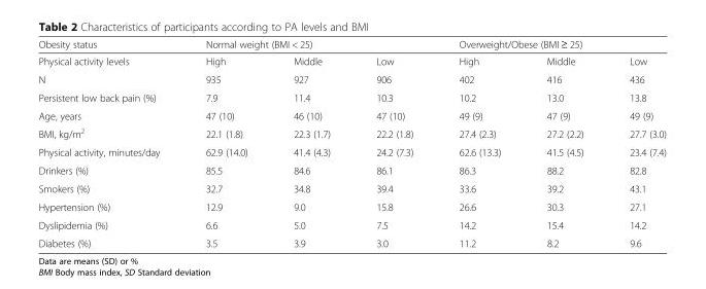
<table><thead><tr><td rowspan="2">Obesity status Physical activity levels</td><td colspan="3">Normal weight (BMI &lt; 25)</td><td colspan="3">Overweight/Obese (BMI ≥ 25)</td></tr><tr><td>High</td><td>Middle</td><td>Low</td><td>High</td><td>Middle</td><td>Low</td></tr></thead><tbody><tr><td>N</td><td>935</td><td>927</td><td>906</td><td>402</td><td>416</td><td>436</td></tr><tr><td>Persistent low back pain (%)</td><td>7.9</td><td>11.4</td><td>10.3</td><td>10.2</td><td>13.0</td><td>13.8</td></tr><tr><td>Age, years</td><td>47 (10)</td><td>46 (10)</td><td>47 (10)</td><td>49 (9)</td><td>47 (9)</td><td>49 (9)</td></tr><tr><td>BMI, kg/m<sup>2</sup></td><td>22.1 (1.8)</td><td>22.3 (1.7)</td><td>22.2 (1.8)</td><td>27.4 (2.3)</td><td>27.2 (2.2)</td><td>27.7 (3.0)</td></tr><tr><td>Physical activity, minutes/day</td><td>62.9 (14.0)</td><td>41.4 (4.3)</td><td>24.2 (7.3)</td><td>62.6 (13.3)</td><td>41.5 (4.5)</td><td>23.4 (7.4)</td></tr><tr><td>Drinkers (%)</td><td>85.5</td><td>84.6</td><td>86.1</td><td>86.3</td><td>88.2</td><td>82.8</td></tr><tr><td>Smokers (%)</td><td>32.7</td><td>34.8</td><td>39.4</td><td>33.6</td><td>39.2</td><td>43.1</td></tr><tr><td>Hypertension (%)</td><td>12.9</td><td>9.0</td><td>15.8</td><td>26.6</td><td>30.3</td><td>27.1</td></tr><tr><td>Dyslipidemia (%)</td><td>6.6</td><td>5.0</td><td>7.5</td><td>14.2</td><td>15.4</td><td>14.2</td></tr><tr><td>Diabetes (%)</td><td>3.5</td><td>3.9</td><td>3.0</td><td>11.2</td><td>8.2</td><td>9.6</td></tr></tbody></table>